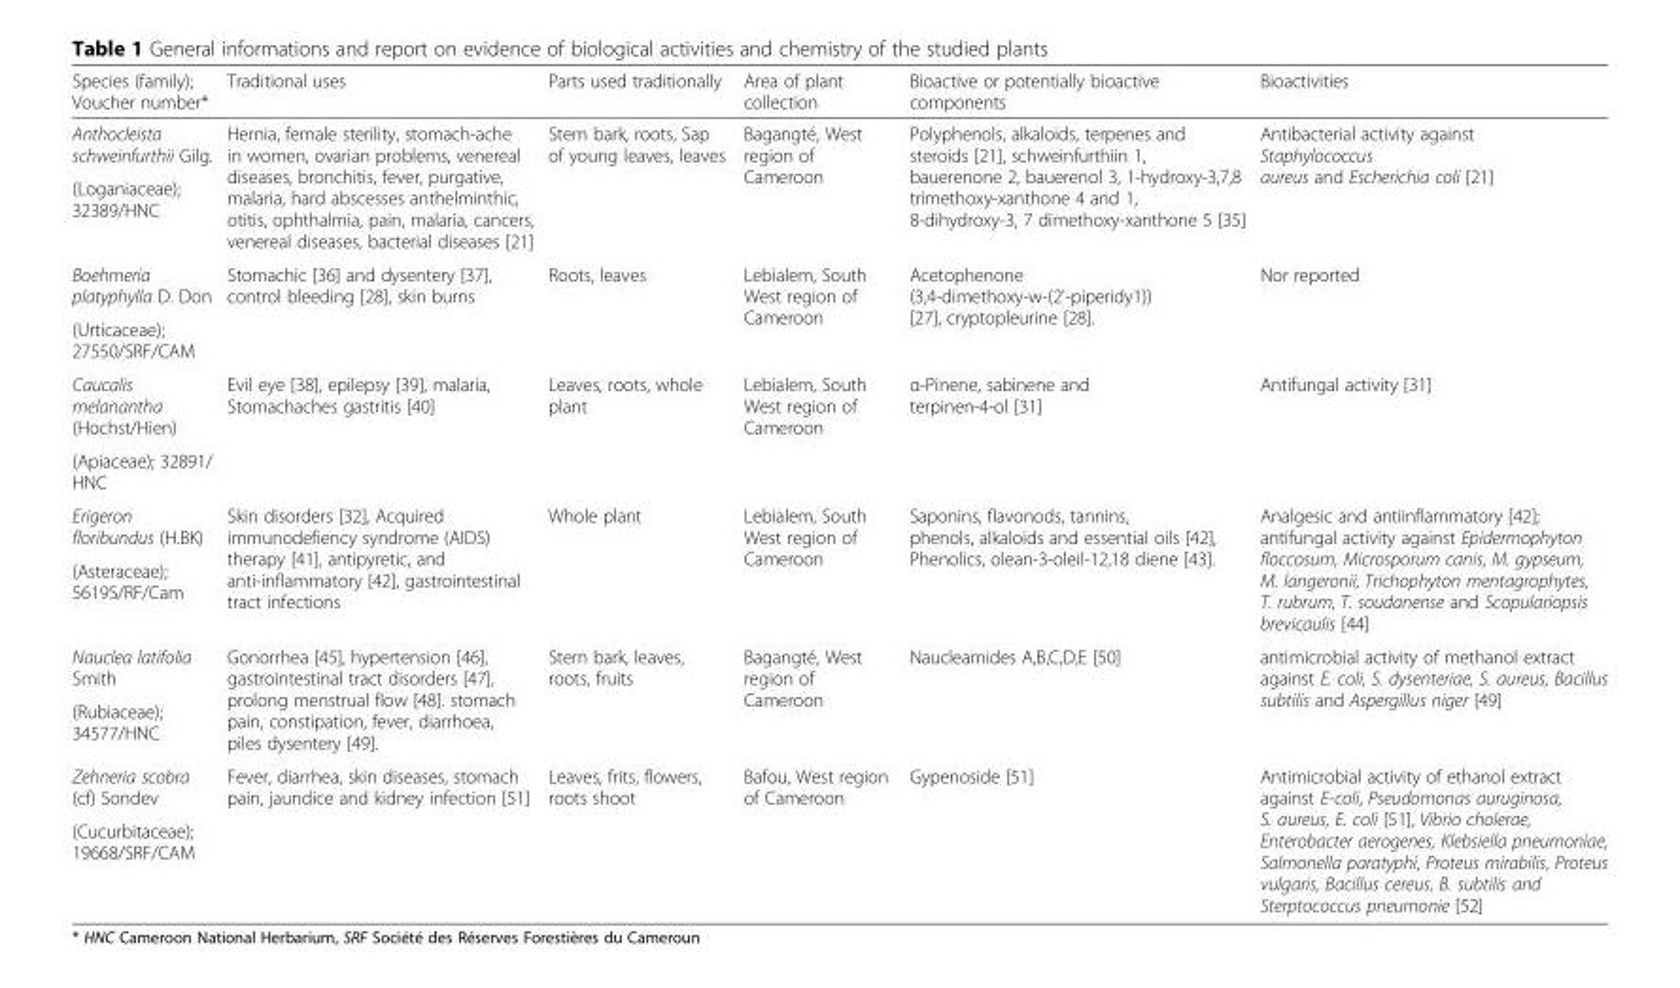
<table><thead><tr><td>Species (family); Voucher number*</td><td>Traditional uses</td><td>Parts used traditionally</td><td>Area of plant collection</td><td>Bioactive or potentially bioactive components</td><td>Bioactivities</td></tr></thead><tbody><tr><td>Anthocleista schweinfurthii Gilg.</td><td rowspan="2">Hernia, female sterility, stomach-ache in women, ovarian problems, venereal diseases, bronchitis, fever, purgative, malaria, hard abscesses anthelminthic, otitis, ophthalmia, pain, malaria, cancers, venereal diseases, bacterial diseases [21]</td><td rowspan="2">Stem bark, roots, Sap of young leaves, leaves</td><td rowspan="2">Bagangté, West region of Cameroon</td><td rowspan="2">Polyphenols, alkaloids, terpenes and steroids [21], schweinfurthiin 1, bauerenone 2, bauerenol 3, 1-hydroxy-3,7,8 trimethoxy-xanthone 4 and 1, 8-dihydroxy-3, 7 dimethoxy-xanthone 5 [35]</td><td rowspan="2">Antibacterial activity against Staphylococcus aureus and Escherichia coli [21]</td></tr><tr><td>(Loganiaceae); 32389/HNC</td></tr><tr><td>Boehmeria platyphylla D. Don</td><td rowspan="2">Stomachic [36] and dysentery [37], control bleeding [28], skin burns</td><td rowspan="2">Roots, leaves</td><td rowspan="2">Lebialem, South West region of Cameroon</td><td rowspan="2">Acetophenone (3,4-dimethoxy-w-(2&#x27;-piperidy1)) [27], cryptopleurine [28].</td><td rowspan="2">Nor reported</td></tr><tr><td>(Urticaceae); 27550/SRF/CAM</td></tr><tr><td>Caucalis melanantha (Hochst/Hien)</td><td rowspan="2">Evil eye [38], epilepsy [39], malaria, Stomachaches gastritis [40]</td><td rowspan="2">Leaves, roots, whole plant</td><td rowspan="2">Lebialem, South West region of Cameroon</td><td rowspan="2">α-Pinene, sabinene and terpinen-4-ol [31]</td><td rowspan="2">Antifungal activity [31]</td></tr><tr><td>(Apiaceae); 32891/ HNC</td></tr><tr><td>Erigeron floribundus (H.BK)</td><td rowspan="2">Skin disorders [32], Acquired immunodefiency syndrome (AIDS) therapy [41], antipyretic, and anti-inflammatory [42], gastrointestinal tract infections</td><td rowspan="2">Whole plant</td><td rowspan="2">Lebialem, South West region of Cameroon</td><td rowspan="2">Saponins, flavonods, tannins, phenols, alkaloids and essential oils [42], Phenolics, olean-3-oleil-12,18 diene [43].</td><td rowspan="2">Analgesic and antiinflammatory [42]; antifungal activity against Epidermophyton floccosum, Microsporum canis, M. gypseum, M. langeronii, Trichophyton mentagrophytes, T. rubrum, T. soudanense and Scopulariopsis brevicaulis [44]</td></tr><tr><td>(Asteraceae); 5619S/RF/Cam</td></tr><tr><td>Nauclea latifolia Smith</td><td rowspan="2">Gonorrhea [45], hypertension [46], gastrointestinal tract disorders [47], prolong menstrual flow [48]. stomach pain, constipation, fever, diarrhoea, piles dysentery [49].</td><td rowspan="2">Stem bark, leaves, roots, fruits</td><td rowspan="2">Bagangté, West region of Cameroon</td><td rowspan="2">Naucleamides A,B,C,D,E [50]</td><td rowspan="2">antimicrobial activity of methanol extract against E. coli, S. dysenteriae, S. aureus, Bacillus subtilis and Aspergillus niger [49]</td></tr><tr><td>(Rubiaceae); 34577/HNC</td></tr><tr><td>Zehneria scobra (cf) Sondev</td><td rowspan="2">Fever, diarrhea, skin diseases, stomach pain, jaundice and kidney infection [51]</td><td rowspan="2">Leaves, frits, flowers, roots shoot</td><td rowspan="2">Bafou, West region of Cameroon</td><td rowspan="2">Gypenoside [51]</td><td rowspan="2">Antimicrobial activity of ethanol extract against E-coli, Pseudomonas auruginosa, S. aureus, E. coli [51], Vibrio cholerae, Enterobacter aerogenes, Klebsiella pneumoniae, Salmonella paratyphi, Proteus mirabilis, Proteus vulgaris, Bacillus cereus, B. subtilis and Sterptococcus pneumonie [52]</td></tr><tr><td>(Cucurbitaceae); 19668/SRF/CAM</td></tr></tbody></table>